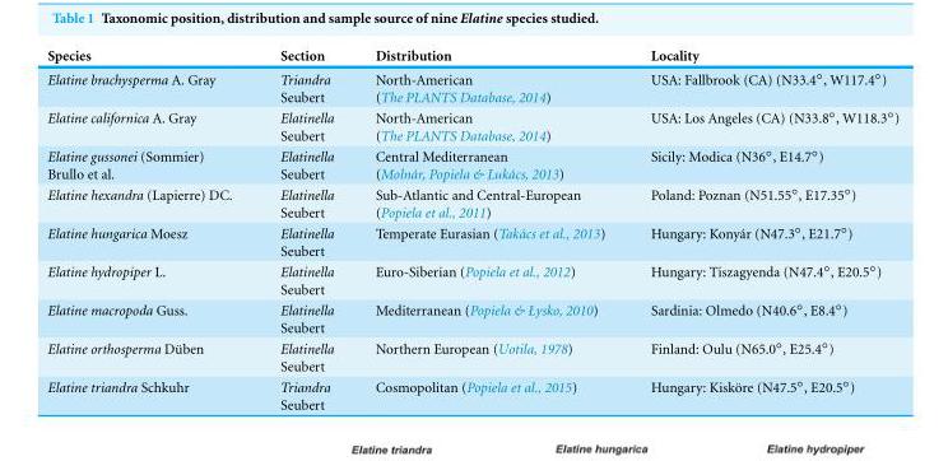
<table><thead><tr><td>Species</td><td>Section</td><td>Distribution</td><td>Locality</td></tr></thead><tbody><tr><td>Elatine brachysperma A. Gray</td><td>Triandra Seubert</td><td>North-American (The PLANTS Database, 2014)</td><td>USA: Fallbrook (CA) (N33.4◦, W117.4◦)</td></tr><tr><td>Elatine californica A. Gray</td><td>Elatinella Seubert</td><td>North-American (The PLANTS Database, 2014)</td><td>USA: Los Angeles (CA) (N33.8◦, W118.3◦)</td></tr><tr><td>Elatine gussonei (Sommier) Brullo et al.</td><td>Elatinella Seubert</td><td>Central Mediterranean (Moln´ar, Popiela &amp; Luk´acs, 2013)</td><td>Sicily: Modica (N36◦, E14.7◦)</td></tr><tr><td>Elatine hexandra (Lapierre) DC.</td><td>Elatinella Seubert</td><td>Sub-Atlantic and Central-European (Popiela et al., 2011)</td><td>Poland: Poznan (N51.55◦, E17.35◦)</td></tr><tr><td>Elatine hungarica Moesz</td><td>Elatinella Seubert</td><td>Temperate Eurasian (Tak´acs et al., 2013)</td><td>Hungary: Kony´ar (N47.3◦, E21.7◦)</td></tr><tr><td>Elatine hydropiper L.</td><td>Elatinella Seubert</td><td>Euro-Siberian (Popiela et al., 2012)</td><td>Hungary: Tiszagyenda (N47.4◦, E20.5◦)</td></tr><tr><td>Elatine macropoda Guss.</td><td>Elatinella Seubert</td><td>Mediterranean (Popiela &amp; Łysko, 2010)</td><td>Sardinia: Olmedo (N40.6◦, E8.4◦)</td></tr><tr><td>Elatine orthosperma D¨uben</td><td>Elatinella Seubert</td><td>Northern European (Uotila, 1978)</td><td>Finland: Oulu (N65.0◦, E25.4◦)</td></tr><tr><td>Elatine triandra Schkuhr</td><td>Triandra Seubert</td><td>Cosmopolitan (Popiela et al., 2015)</td><td>Hungary: Kisk¨ore (N47.5◦, E20.5◦)</td></tr></tbody></table>